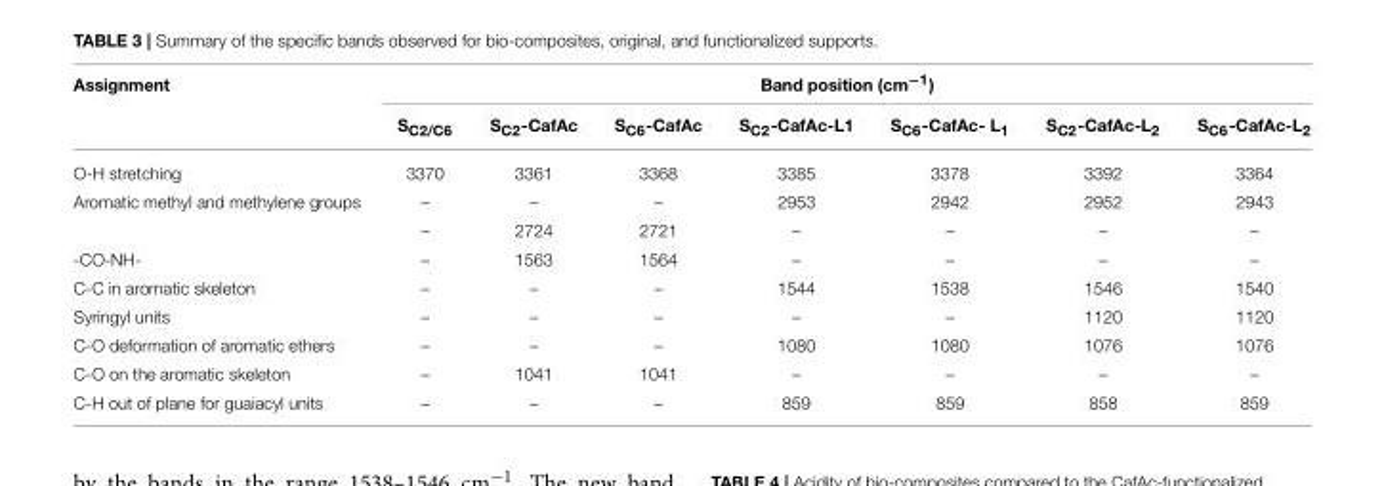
<table><thead><tr><td rowspan="2">Assignment</td><td colspan="7">Band position (cm<sup>−1</sup>)</td></tr><tr><td>S<sub>C2/C6</sub></td><td>S<sub>C2</sub>-CafAc</td><td>S<sub>C6</sub>-CafAc</td><td>S<sub>C2</sub>-CafAc-L1</td><td>S<sub>C6</sub>-CafAc- L<sub>1</sub></td><td>S<sub>C2</sub>-CafAc-L<sub>2</sub></td><td>S<sub>C6</sub>-CafAc-L<sub>2</sub></td></tr></thead><tbody><tr><td>O-H stretching</td><td>3370</td><td>3361</td><td>3368</td><td>3385</td><td>3378</td><td>3392</td><td>3364</td></tr><tr><td rowspan="2">Aromatic methyl and methylene groups</td><td>–</td><td>–</td><td>–</td><td>2953</td><td>2942</td><td>2952</td><td>2943</td></tr><tr><td>–</td><td>2724</td><td>2721</td><td>–</td><td>–</td><td>–</td><td>–</td></tr><tr><td>-CO-NH-</td><td>–</td><td>1563</td><td>1564</td><td>–</td><td>–</td><td>–</td><td>–</td></tr><tr><td>C-C in aromatic skeleton</td><td>–</td><td>–</td><td>–</td><td>1544</td><td>1538</td><td>1546</td><td>1540</td></tr><tr><td>Syringyl units</td><td>–</td><td>–</td><td>–</td><td>–</td><td>–</td><td>1120</td><td>1120</td></tr><tr><td>C-O deformation of aromatic ethers</td><td>–</td><td>–</td><td>–</td><td>1080</td><td>1080</td><td>1076</td><td>1076</td></tr><tr><td>C-O on the aromatic skeleton</td><td>–</td><td>1041</td><td>1041</td><td>–</td><td>–</td><td>–</td><td>–</td></tr><tr><td>C-H out of plane for guaiacyl units</td><td>–</td><td>–</td><td>–</td><td>859</td><td>859</td><td>858</td><td>859</td></tr></tbody></table>